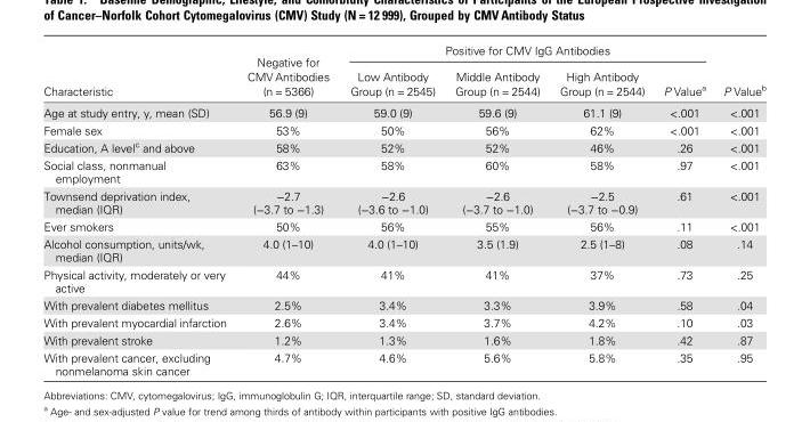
<table><thead><tr><td rowspan="2">Characteristic</td><td rowspan="2">Negative for CMV Antibodies (n = 5366)</td><td colspan="4">Positive for CMV IgG Antibodies</td><td rowspan="2">P Value<sup>b</sup></td></tr><tr><td>Low Antibody Group (n = 2545)</td><td>Middle Antibody Group (n = 2544)</td><td>High Antibody Group (n = 2544)</td><td>P Value<sup>a</sup></td></tr></thead><tbody><tr><td>Age at study entry, y, mean (SD)</td><td>56.9 (9)</td><td>59.0 (9)</td><td>59.6 (9)</td><td>61.1 (9)</td><td>&lt;.001</td><td>&lt;.001</td></tr><tr><td>Female sex</td><td>53%</td><td>50%</td><td>56%</td><td>62%</td><td>&lt;.001</td><td>&lt;.001</td></tr><tr><td>Education, A level<sup>c</sup> and above</td><td>58%</td><td>52%</td><td>52%</td><td>46%</td><td>.26</td><td>&lt;.001</td></tr><tr><td>Social class, nonmanual employment</td><td>63%</td><td>58%</td><td>60%</td><td>58%</td><td>.97</td><td>&lt;.001</td></tr><tr><td>Townsend deprivation index, median (IQR)</td><td>−2.7 (−3.7 to −1.3)</td><td>−2.6 (−3.6 to −1.0)</td><td>−2.6 (−3.7 to −1.0)</td><td>−2.5 (−3.7 to −0.9)</td><td>.61</td><td>&lt;.001</td></tr><tr><td>Ever smokers</td><td>50%</td><td>56%</td><td>55%</td><td>56%</td><td>.11</td><td>&lt;.001</td></tr><tr><td>Alcohol consumption, units/wk, median (IQR)</td><td>4.0 (1–10)</td><td>4.0 (1–10)</td><td>3.5 (1.9)</td><td>2.5 (1–8)</td><td>.08</td><td>.14</td></tr><tr><td>Physical activity, moderately or very active</td><td>44%</td><td>41%</td><td>41%</td><td>37%</td><td>.73</td><td>.25</td></tr><tr><td>With prevalent diabetes mellitus</td><td>2.5%</td><td>3.4%</td><td>3.3%</td><td>3.9%</td><td>.58</td><td>.04</td></tr><tr><td>With prevalent myocardial infarction</td><td>2.6%</td><td>3.4%</td><td>3.7%</td><td>4.2%</td><td>.10</td><td>.03</td></tr><tr><td>With prevalent stroke</td><td>1.2%</td><td>1.3%</td><td>1.6%</td><td>1.8%</td><td>.42</td><td>.87</td></tr><tr><td>With prevalent cancer, excluding nonmelanoma skin cancer</td><td>4.7%</td><td>4.6%</td><td>5.6%</td><td>5.8%</td><td>.35</td><td>.95</td></tr></tbody></table>